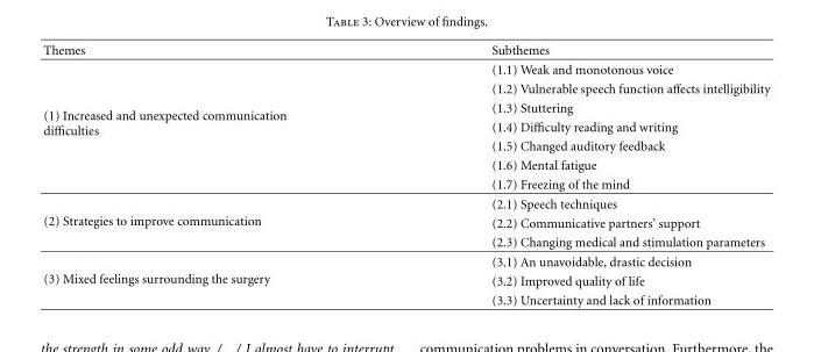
<table><thead><tr><td>Themes</td><td>Subthemes</td></tr></thead><tbody><tr><td rowspan="7">(1) Increased and unexpected communication difficulties</td><td>(1.1) Weak and monotonous voice</td></tr><tr><td>(1.2) Vulnerable speech function affects intelligibility</td></tr><tr><td>(1.3) Stuttering</td></tr><tr><td>(1.4) Difficulty reading and writing</td></tr><tr><td>(1.5) Changed auditory feedback</td></tr><tr><td>(1.6) Mental fatigue</td></tr><tr><td>(1.7) Freezing of the mind</td></tr><tr><td rowspan="3">(2) Strategies to improve communication</td><td>(2.1) Speech techniques</td></tr><tr><td>(2.2) Communicative partners’ support</td></tr><tr><td>(2.3) Changing medical and stimulation parameters</td></tr><tr><td rowspan="3">(3) Mixed feelings surrounding the surgery</td><td>(3.1) An unavoidable, drastic decision</td></tr><tr><td>(3.2) Improved quality of life</td></tr><tr><td>(3.3) Uncertainty and lack of information</td></tr></tbody></table>